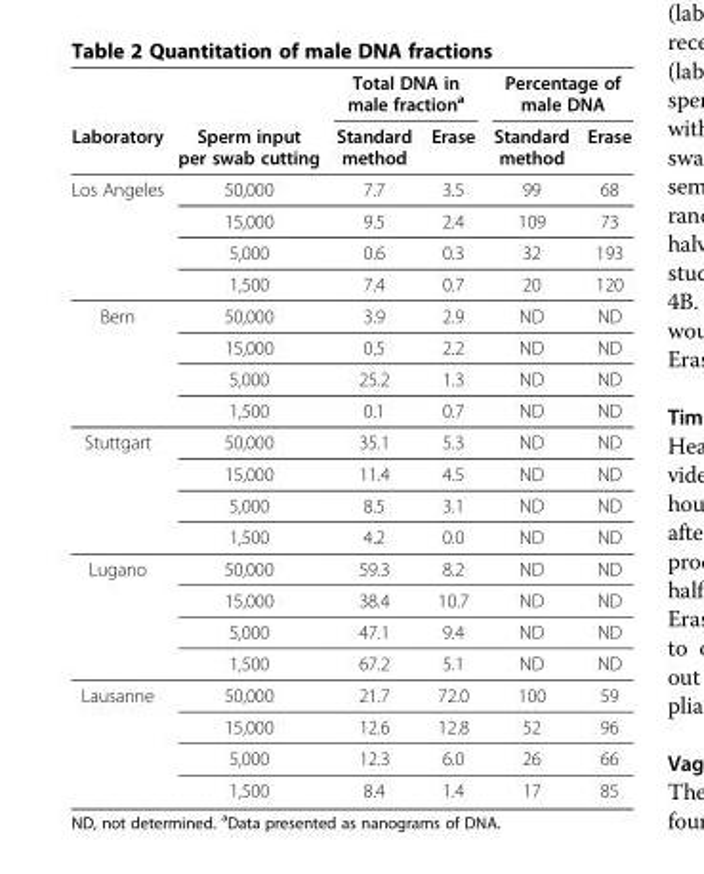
<table><thead><tr><td rowspan="2">Laboratory</td><td rowspan="2">Sperm input per swab cutting</td><td colspan="2">Total DNA in male fraction<sup>a</sup></td><td colspan="2">Percentage of male DNA</td></tr><tr><td>Standard method</td><td>Erase</td><td>Standard method</td><td>Erase</td></tr></thead><tbody><tr><td rowspan="4">Los Angeles</td><td>50,000</td><td>7.7</td><td>3.5</td><td>99</td><td>68</td></tr><tr><td>15,000</td><td>9.5</td><td>2.4</td><td>109</td><td>73</td></tr><tr><td>5,000</td><td>0.6</td><td>0.3</td><td>32</td><td>193</td></tr><tr><td>1,500</td><td>7.4</td><td>0.7</td><td>20</td><td>120</td></tr><tr><td rowspan="4">Bern</td><td>50,000</td><td>3.9</td><td>2.9</td><td>ND</td><td>ND</td></tr><tr><td>15,000</td><td>0.5</td><td>2.2</td><td>ND</td><td>ND</td></tr><tr><td>5,000</td><td>25.2</td><td>1.3</td><td>ND</td><td>ND</td></tr><tr><td>1,500</td><td>0.1</td><td>0.7</td><td>ND</td><td>ND</td></tr><tr><td rowspan="4">Stuttgart</td><td>50,000</td><td>35.1</td><td>5.3</td><td>ND</td><td>ND</td></tr><tr><td>15,000</td><td>11.4</td><td>4.5</td><td>ND</td><td>ND</td></tr><tr><td>5,000</td><td>8.5</td><td>3.1</td><td>ND</td><td>ND</td></tr><tr><td>1,500</td><td>4.2</td><td>0.0</td><td>ND</td><td>ND</td></tr><tr><td rowspan="4">Lugano</td><td>50,000</td><td>59.3</td><td>8.2</td><td>ND</td><td>ND</td></tr><tr><td>15,000</td><td>38.4</td><td>10.7</td><td>ND</td><td>ND</td></tr><tr><td>5,000</td><td>47.1</td><td>9.4</td><td>ND</td><td>ND</td></tr><tr><td>1,500</td><td>67.2</td><td>5.1</td><td>ND</td><td>ND</td></tr><tr><td rowspan="4">Lausanne</td><td>50,000</td><td>21.7</td><td>72.0</td><td>100</td><td>59</td></tr><tr><td>15,000</td><td>12.6</td><td>12.8</td><td>52</td><td>96</td></tr><tr><td>5,000</td><td>12.3</td><td>6.0</td><td>26</td><td>66</td></tr><tr><td>1,500</td><td>8.4</td><td>1.4</td><td>17</td><td>85</td></tr></tbody></table>